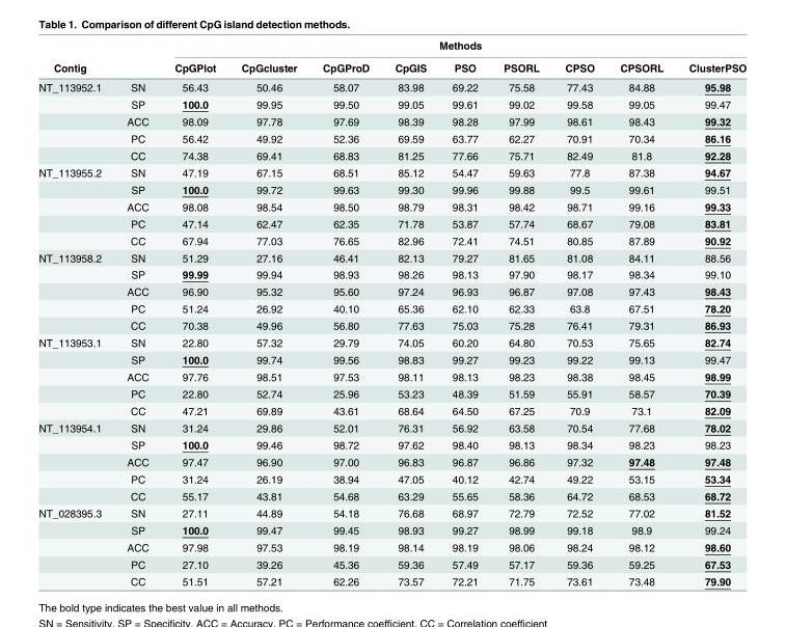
<table><thead><tr><td rowspan="2">Contig</td><td rowspan="2"></td><td colspan="9">Methods</td></tr><tr><td>CpGPlot</td><td>CpGcluster</td><td>CpGProD</td><td>CpGIS</td><td>PSO</td><td>PSORL</td><td>CPSO</td><td>CPSORL</td><td>ClusterPSO</td></tr></thead><tbody><tr><td rowspan="5">NT_113952.1</td><td>SN</td><td>56.43</td><td>50.46</td><td>58.07</td><td>83.98</td><td>69.22</td><td>75.58</td><td>77.43</td><td>84.88</td><td>95.98</td></tr><tr><td>SP</td><td>100.0</td><td>99.95</td><td>99.50</td><td>99.05</td><td>99.61</td><td>99.02</td><td>99.58</td><td>99.05</td><td>99.47</td></tr><tr><td>ACC</td><td>98.09</td><td>97.78</td><td>97.69</td><td>98.39</td><td>98.28</td><td>97.99</td><td>98.61</td><td>98.43</td><td>99.32</td></tr><tr><td>PC</td><td>56.42</td><td>49.92</td><td>52.36</td><td>69.59</td><td>63.77</td><td>62.27</td><td>70.91</td><td>70.34</td><td>86.16</td></tr><tr><td>CC</td><td>74.38</td><td>69.41</td><td>68.83</td><td>81.25</td><td>77.66</td><td>75.71</td><td>82.49</td><td>81.8</td><td>92.28</td></tr><tr><td rowspan="5">NT_113955.2</td><td>SN</td><td>47.19</td><td>67.15</td><td>68.51</td><td>85.12</td><td>54.47</td><td>59.63</td><td>77.8</td><td>87.38</td><td>94.67</td></tr><tr><td>SP</td><td>100.0</td><td>99.72</td><td>99.63</td><td>99.30</td><td>99.96</td><td>99.88</td><td>99.5</td><td>99.61</td><td>99.51</td></tr><tr><td>ACC</td><td>98.08</td><td>98.54</td><td>98.50</td><td>98.79</td><td>98.31</td><td>98.42</td><td>98.71</td><td>99.16</td><td>99.33</td></tr><tr><td>PC</td><td>47.14</td><td>62.47</td><td>62.35</td><td>71.78</td><td>53.87</td><td>57.74</td><td>68.67</td><td>79.08</td><td>83.81</td></tr><tr><td>CC</td><td>67.94</td><td>77.03</td><td>76.65</td><td>82.96</td><td>72.41</td><td>74.51</td><td>80.85</td><td>87.89</td><td>90.92</td></tr><tr><td rowspan="5">NT_113958.2</td><td>SN</td><td>51.29</td><td>27.16</td><td>46.41</td><td>82.13</td><td>79.27</td><td>81.65</td><td>81.08</td><td>84.11</td><td>88.56</td></tr><tr><td>SP</td><td>99.99</td><td>99.94</td><td>98.93</td><td>98.26</td><td>98.13</td><td>97.90</td><td>98.17</td><td>98.34</td><td>99.10</td></tr><tr><td>ACC</td><td>96.90</td><td>95.32</td><td>95.60</td><td>97.24</td><td>96.93</td><td>96.87</td><td>97.08</td><td>97.43</td><td>98.43</td></tr><tr><td>PC</td><td>51.24</td><td>26.92</td><td>40.10</td><td>65.36</td><td>62.10</td><td>62.33</td><td>63.8</td><td>67.51</td><td>78.20</td></tr><tr><td>CC</td><td>70.38</td><td>49.96</td><td>56.80</td><td>77.63</td><td>75.03</td><td>75.28</td><td>76.41</td><td>79.31</td><td>86.93</td></tr><tr><td rowspan="5">NT_113953.1</td><td>SN</td><td>22.80</td><td>57.32</td><td>29.79</td><td>74.05</td><td>60.20</td><td>64.80</td><td>70.53</td><td>75.65</td><td>82.74</td></tr><tr><td>SP</td><td>100.0</td><td>99.74</td><td>99.56</td><td>98.83</td><td>99.27</td><td>99.23</td><td>99.22</td><td>99.13</td><td>99.47</td></tr><tr><td>ACC</td><td>97.76</td><td>98.51</td><td>97.53</td><td>98.11</td><td>98.13</td><td>98.23</td><td>98.38</td><td>98.45</td><td>98.99</td></tr><tr><td>PC</td><td>22.80</td><td>52.74</td><td>25.96</td><td>53.23</td><td>48.39</td><td>51.59</td><td>55.91</td><td>58.57</td><td>70.39</td></tr><tr><td>CC</td><td>47.21</td><td>69.89</td><td>43.61</td><td>68.64</td><td>64.50</td><td>67.25</td><td>70.9</td><td>73.1</td><td>82.09</td></tr><tr><td rowspan="5">NT_113954.1</td><td>SN</td><td>31.24</td><td>29.86</td><td>52.01</td><td>76.31</td><td>56.92</td><td>63.58</td><td>70.54</td><td>77.68</td><td>78.02</td></tr><tr><td>SP</td><td>100.0</td><td>99.46</td><td>98.72</td><td>97.62</td><td>98.40</td><td>98.13</td><td>98.34</td><td>98.23</td><td>98.23</td></tr><tr><td>ACC</td><td>97.47</td><td>96.90</td><td>97.00</td><td>96.83</td><td>96.87</td><td>96.86</td><td>97.32</td><td>97.48</td><td>97.48</td></tr><tr><td>PC</td><td>31.24</td><td>26.19</td><td>38.94</td><td>47.05</td><td>40.12</td><td>42.74</td><td>49.22</td><td>53.15</td><td>53.34</td></tr><tr><td>CC</td><td>55.17</td><td>43.81</td><td>54.68</td><td>63.29</td><td>55.65</td><td>58.36</td><td>64.72</td><td>68.53</td><td>68.72</td></tr><tr><td rowspan="5">NT_028395.3</td><td>SN</td><td>27.11</td><td>44.89</td><td>54.18</td><td>76.68</td><td>68.97</td><td>72.79</td><td>72.52</td><td>77.02</td><td>81.52</td></tr><tr><td>SP</td><td>100.0</td><td>99.47</td><td>99.45</td><td>98.93</td><td>99.27</td><td>98.99</td><td>99.18</td><td>98.9</td><td>99.24</td></tr><tr><td>ACC</td><td>97.98</td><td>97.53</td><td>98.19</td><td>98.14</td><td>98.19</td><td>98.06</td><td>98.24</td><td>98.12</td><td>98.60</td></tr><tr><td>PC</td><td>27.10</td><td>39.26</td><td>45.36</td><td>59.36</td><td>57.49</td><td>57.17</td><td>59.36</td><td>59.25</td><td>67.53</td></tr><tr><td>CC</td><td>51.51</td><td>57.21</td><td>62.26</td><td>73.57</td><td>72.21</td><td>71.75</td><td>73.61</td><td>73.48</td><td>79.90</td></tr></tbody></table>